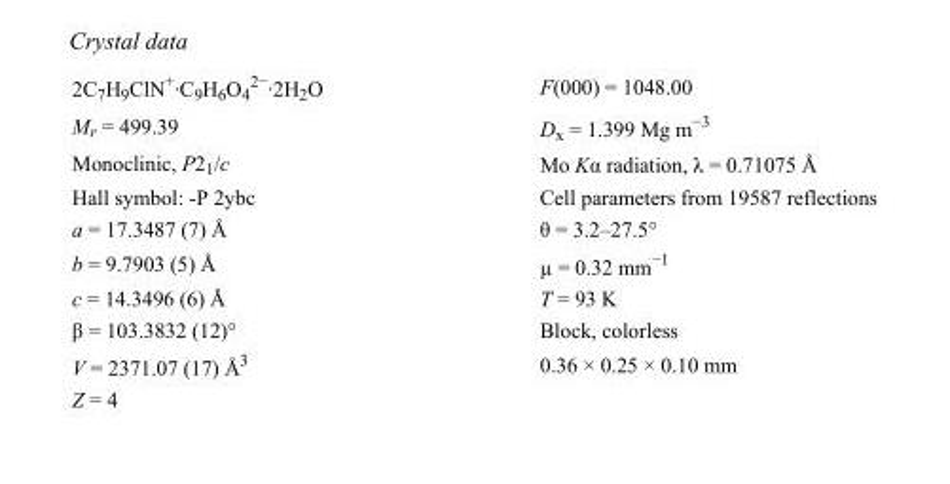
<table><tbody><tr><td>2C<sub>7</sub>H<sub>9</sub>ClN<sup>+</sup>·C<sub>9</sub>H<sub>6</sub>O<sub>4</sub> <sup>2−</sup>·2H<sub>2</sub>O</td><td>F(000) = 1048.00</td></tr><tr><td>M<sub>r</sub> = 499.39</td><td>D<sub>x</sub> = 1.399 Mg m<sup>−3</sup></td></tr><tr><td>Monoclinic, P2<sub>1</sub>/c</td><td>Mo Kα radiation, λ = 0.71075 Å</td></tr><tr><td>Hall symbol: -P 2ybc</td><td>Cell parameters from 19587 reflections</td></tr><tr><td>a = 17.3487 (7) Å</td><td>θ = 3.2–27.5°</td></tr><tr><td>b = 9.7903 (5) Å</td><td>µ = 0.32 mm<sup>−1</sup></td></tr><tr><td>c = 14.3496 (6) Å</td><td>T = 93 K</td></tr><tr><td>β = 103.3832 (12)°</td><td>Block, colorless</td></tr><tr><td>V = 2371.07 (17) Å<sup>3</sup></td><td>0.36 × 0.25 × 0.10 mm</td></tr><tr><td>Z = 4</td><td></td></tr></tbody></table>